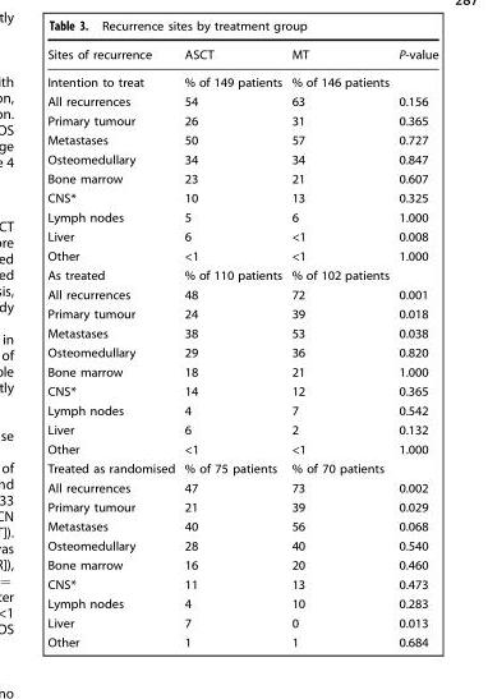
<table><thead><tr><td>Sites of recurrence</td><td>ASCT</td><td>MT</td><td>P-value</td></tr></thead><tbody><tr><td>Intention to treat</td><td>% of 149 patients</td><td>% of 146 patients</td><td></td></tr><tr><td>All recurrences</td><td>54</td><td>63</td><td>0.156</td></tr><tr><td>Primary tumour</td><td>26</td><td>31</td><td>0.365</td></tr><tr><td>Metastases</td><td>50</td><td>57</td><td>0.727</td></tr><tr><td>Osteomedullary</td><td>34</td><td>34</td><td>0.847</td></tr><tr><td>Bone marrow</td><td>23</td><td>21</td><td>0.607</td></tr><tr><td>CNS*</td><td>10</td><td>13</td><td>0.325</td></tr><tr><td>Lymph nodes</td><td>5</td><td>6</td><td>1.000</td></tr><tr><td>Liver</td><td>6</td><td>&lt;1</td><td>0.008</td></tr><tr><td>Other</td><td>&lt;1</td><td>&lt;1</td><td>1.000</td></tr><tr><td>As treated</td><td>% of 110 patients</td><td>% of 102 patients</td><td></td></tr><tr><td>All recurrences</td><td>48</td><td>72</td><td>0.001</td></tr><tr><td>Primary tumour</td><td>24</td><td>39</td><td>0.018</td></tr><tr><td>Metastases</td><td>38</td><td>53</td><td>0.038</td></tr><tr><td>Osteomedullary</td><td>29</td><td>36</td><td>0.820</td></tr><tr><td>Bone marrow</td><td>18</td><td>21</td><td>1.000</td></tr><tr><td>CNS*</td><td>14</td><td>12</td><td>0.365</td></tr><tr><td>Lymph nodes</td><td>4</td><td>7</td><td>0.542</td></tr><tr><td>Liver</td><td>6</td><td>2</td><td>0.132</td></tr><tr><td>Other</td><td>&lt;1</td><td>&lt;1</td><td>1.000</td></tr><tr><td>Treated as randomised</td><td>% of 75 patients</td><td>% of 70 patients</td><td></td></tr><tr><td>All recurrences</td><td>47</td><td>73</td><td>0.002</td></tr><tr><td>Primary tumour</td><td>21</td><td>39</td><td>0.029</td></tr><tr><td>Metastases</td><td>40</td><td>56</td><td>0.068</td></tr><tr><td>Osteomedullary</td><td>28</td><td>40</td><td>0.540</td></tr><tr><td>Bone marrow</td><td>16</td><td>20</td><td>0.460</td></tr><tr><td>CNS*</td><td>11</td><td>13</td><td>0.473</td></tr><tr><td>Lymph nodes</td><td>4</td><td>10</td><td>0.283</td></tr><tr><td>Liver</td><td>7</td><td>0</td><td>0.013</td></tr><tr><td>Other</td><td>1</td><td>1</td><td>0.684</td></tr></tbody></table>